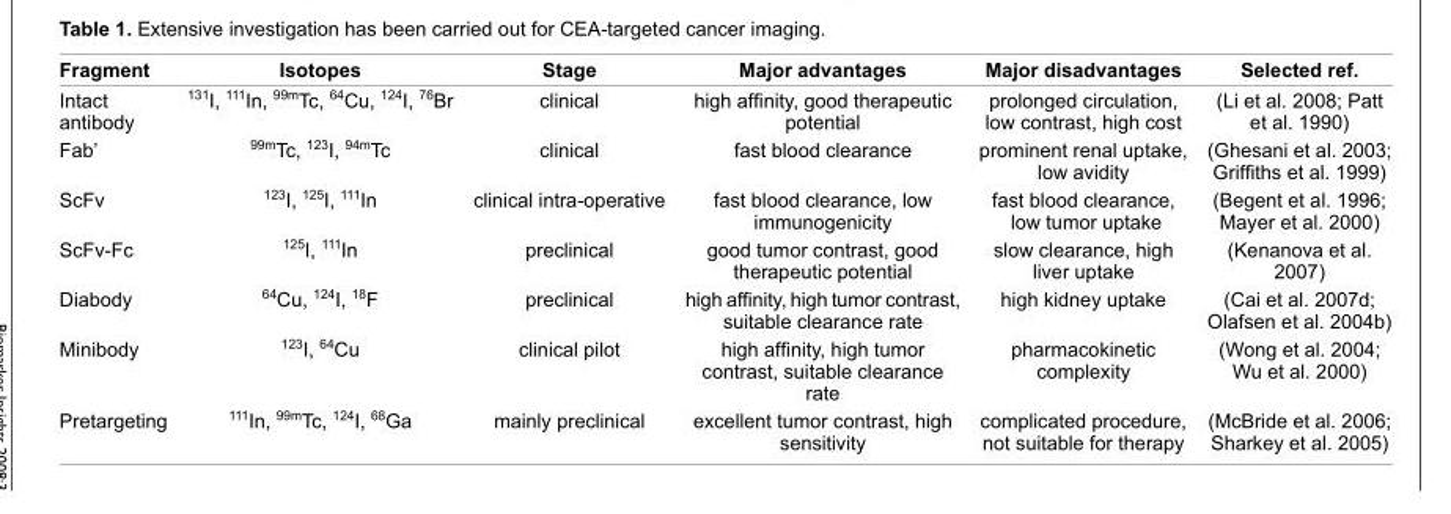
<table><thead><tr><td>Fragment</td><td>Isotopes</td><td>Stage</td><td>Major advantages</td><td>Major disadvantages</td><td>Selected ref.</td></tr></thead><tbody><tr><td>Intact antibody</td><td><sup>131</sup>I, <sup>111</sup>In, <sup>99m</sup>Tc, <sup>64</sup>Cu, <sup>124</sup>I, <sup>76</sup>Br</td><td>clinical</td><td>high affi nity, good therapeutic potential</td><td>prolonged circulation, low contrast, high cost</td><td>(Li et al. 2008; Patt et al. 1990)</td></tr><tr><td>Fab’</td><td><sup>99m</sup>Tc, <sup>123</sup>I, <sup>94m</sup>Tc</td><td>clinical</td><td>fast blood clearance</td><td>prominent renal uptake, low avidity</td><td>(Ghesani et al. 2003; Griffi ths et al. 1999)</td></tr><tr><td>ScFv</td><td><sup>123</sup>I, <sup>125</sup>I, <sup>111</sup>In</td><td>clinical intra-operative</td><td>fast blood clearance, low immunogenicity</td><td>fast blood clearance, low tumor uptake</td><td>(Begent et al. 1996; Mayer et al. 2000)</td></tr><tr><td>ScFv-Fc</td><td><sup>125</sup>I, <sup>111</sup>In</td><td>preclinical</td><td>good tumor contrast, good therapeutic potential</td><td>slow clearance, high liver uptake</td><td>(Kenanova et al. 2007)</td></tr><tr><td>Diabody</td><td><sup>64</sup>Cu, <sup>124</sup>I, <sup>18</sup>F</td><td>preclinical</td><td>high affi nity, high tumor contrast, suitable clearance rate</td><td>high kidney uptake</td><td>(Cai et al. 2007d; Olafsen et al. 2004b)</td></tr><tr><td>Minibody</td><td><sup>123</sup>I, <sup>64</sup>Cu</td><td>clinical pilot</td><td>high affi nity, high tumor contrast, suitable clearance rate</td><td>pharmacokinetic complexity</td><td>(Wong et al. 2004; Wu et al. 2000)</td></tr><tr><td>Pretargeting</td><td><sup>111</sup>In, <sup>99m</sup>Tc, <sup>124</sup>I, <sup>68</sup>Ga</td><td>mainly preclinical</td><td>excellent tumor contrast, high sensitivity</td><td>complicated procedure, not suitable for therapy</td><td>(McBride et al. 2006; Sharkey et al. 2005)</td></tr></tbody></table>